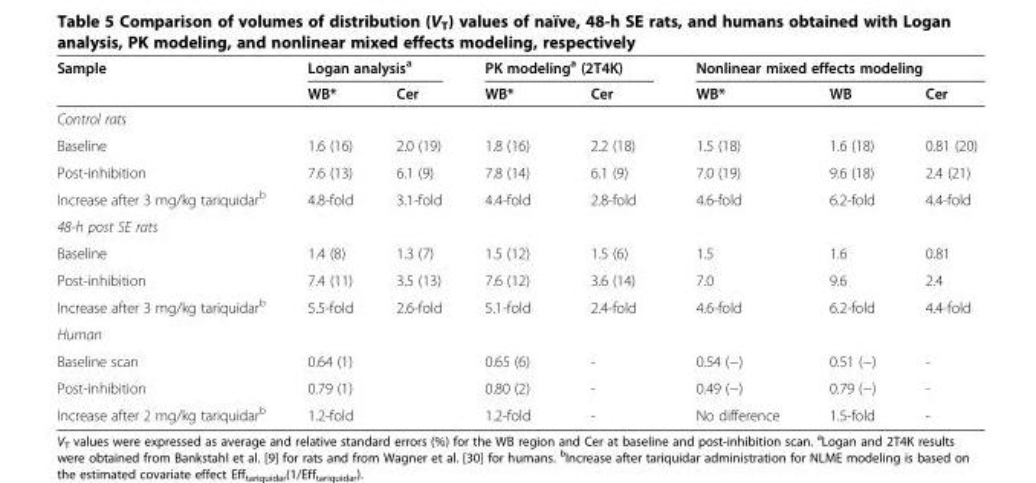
<table><thead><tr><td rowspan="2">Sample</td><td colspan="2">Logan analysis<sup>a</sup></td><td colspan="2">PK modeling<sup>a</sup> (2T4K)</td><td colspan="3">Nonlinear mixed effects modeling</td></tr><tr><td>WB*</td><td>Cer</td><td>WB*</td><td>Cer</td><td>WB*</td><td>WB</td><td>Cer</td></tr></thead><tbody><tr><td colspan="8">Control rats</td></tr><tr><td>Baseline</td><td>1.6 (16)</td><td>2.0 (19)</td><td>1.8 (16)</td><td>2.2 (18)</td><td>1.5 (18)</td><td>1.6 (18)</td><td>0.81 (20)</td></tr><tr><td>Post-inhibition</td><td>7.6 (13)</td><td>6.1 (9)</td><td>7.8 (14)</td><td>6.1 (9)</td><td>7.0 (19)</td><td>9.6 (18)</td><td>2.4 (21)</td></tr><tr><td>Increase after 3 mg/kg tariquidar<sup>b</sup></td><td>4.8-fold</td><td>3.1-fold</td><td>4.4-fold</td><td>2.8-fold</td><td>4.6-fold</td><td>6.2-fold</td><td>4.4-fold</td></tr><tr><td colspan="8">48-h post SE rats</td></tr><tr><td>Baseline</td><td>1.4 (8)</td><td>1.3 (7)</td><td>1.5 (12)</td><td>1.5 (6)</td><td>1.5</td><td>1.6</td><td>0.81</td></tr><tr><td>Post-inhibition</td><td>7.4 (11)</td><td>3.5 (13)</td><td>7.6 (12)</td><td>3.6 (14)</td><td>7.0</td><td>9.6</td><td>2.4</td></tr><tr><td>Increase after 3 mg/kg tariquidar<sup>b</sup></td><td>5.5-fold</td><td>2.6-fold</td><td>5.1-fold</td><td>2.4-fold</td><td>4.6-fold</td><td>6.2-fold</td><td>4.4-fold</td></tr><tr><td colspan="8">Human</td></tr><tr><td>Baseline scan</td><td>0.64 (1)</td><td></td><td>0.65 (6)</td><td>-</td><td>0.54 (−)</td><td>0.51 (−)</td><td>-</td></tr><tr><td>Post-inhibition</td><td>0.79 (1)</td><td></td><td>0.80 (2)</td><td>-</td><td>0.49 (−)</td><td>0.79 (−)</td><td>-</td></tr><tr><td>Increase after 2 mg/kg tariquidar<sup>b</sup></td><td>1.2-fold</td><td></td><td>1.2-fold</td><td>-</td><td>No difference</td><td>1.5-fold</td><td>-</td></tr></tbody></table>